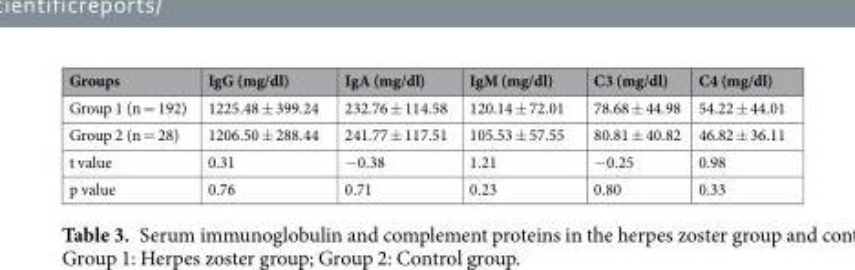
<table><thead><tr><td>Groups</td><td>IgG (mg/dl)</td><td>IgA (mg/dl)</td><td>IgM (mg/dl)</td><td>C3 (mg/dl)</td><td>C4 (mg/dl)</td></tr></thead><tbody><tr><td>Group 1 (n = 192)</td><td>1225.48 ± 399.24</td><td>232.76 ± 114.58</td><td>120.14 ± 72.01</td><td>78.68 ± 44.98</td><td>54.22 ± 44.01</td></tr><tr><td>Group 2 (n = 28)</td><td>1206.50 ± 288.44</td><td>241.77 ± 117.51</td><td>105.53 ± 57.55</td><td>80.81 ± 40.82</td><td>46.82 ± 36.11</td></tr><tr><td>t value</td><td>0.31</td><td>−0.38</td><td>1.21</td><td>−0.25</td><td>0.98</td></tr><tr><td>p value</td><td>0.76</td><td>0.71</td><td>0.23</td><td>0.80</td><td>0.33</td></tr></tbody></table>